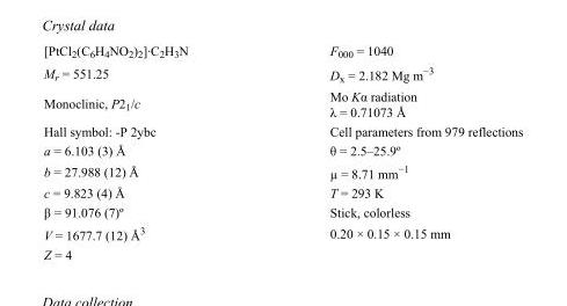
<table><tbody><tr><td>[PtCl<sub>2</sub>(C<sub>6</sub>H<sub>4</sub>NO<sub>2</sub>)<sub>2</sub>]·C<sub>2</sub>H<sub>3</sub>N</td><td>F000 = 1040</td></tr><tr><td>M<sub>r</sub> = 551.25</td><td>D<sub>x</sub> = 2.182 Mg m<sup>−3</sup></td></tr><tr><td>Monoclinic, P2<sub>1</sub>/c</td><td>Mo Kα radiation λ = 0.71073 Å</td></tr><tr><td>Hall symbol: -P 2ybc</td><td>Cell parameters from 979 reflections</td></tr><tr><td>a = 6.103 (3) Å</td><td>θ = 2.5–25.9º</td></tr><tr><td>b = 27.988 (12) Å</td><td>µ = 8.71 mm<sup>−1</sup></td></tr><tr><td>c = 9.823 (4) Å</td><td>T = 293 K</td></tr><tr><td>β = 91.076 (7)º</td><td>Stick, colorless</td></tr><tr><td>V = 1677.7 (12) Å<sup>3</sup></td><td>0.20 × 0.15 × 0.15 mm</td></tr><tr><td>Z = 4</td><td></td></tr></tbody></table>